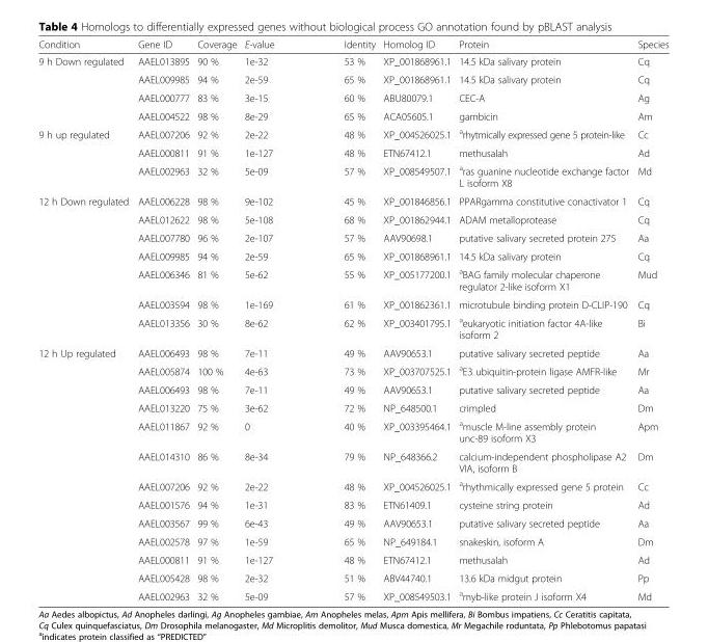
<table><thead><tr><td>Condition</td><td>Gene ID</td><td>Coverage</td><td>E-value</td><td>Identity</td><td>Homolog ID</td><td>Protein</td><td>Species</td></tr></thead><tbody><tr><td rowspan="4">9 h Down regulated</td><td>AAEL013895</td><td>90 %</td><td>1e-32</td><td>53 %</td><td>XP_001868961.1</td><td>14.5 kDa salivary protein</td><td>Cq</td></tr><tr><td>AAEL009985</td><td>94 %</td><td>2e-59</td><td>65 %</td><td>XP_001868961.1</td><td>14.5 kDa salivary protein</td><td>Cq</td></tr><tr><td>AAEL000777</td><td>83 %</td><td>3e-15</td><td>60 %</td><td>ABU80079.1</td><td>CEC-A</td><td>Ag</td></tr><tr><td>AAEL004522</td><td>98 %</td><td>8e-29</td><td>65 %</td><td>ACA05605.1</td><td>gambicin</td><td>Am</td></tr><tr><td rowspan="3">9 h up regulated</td><td>AAEL007206</td><td>92 %</td><td>2e-22</td><td>48 %</td><td>XP_004526025.1</td><td><sup>a</sup>rhytmically expressed gene 5 protein-like</td><td>Cc</td></tr><tr><td>AAEL000811</td><td>91 %</td><td>1e-127</td><td>48 %</td><td>ETN67412.1</td><td>methusalah</td><td>Ad</td></tr><tr><td>AAEL002963</td><td>32 %</td><td>5e-09</td><td>57 %</td><td>XP_008549507.1</td><td><sup>a</sup>ras guanine nucleotide exchange factor L isoform X8</td><td>Md</td></tr><tr><td rowspan="7">12 h Down regulated</td><td>AAEL006228</td><td>98 %</td><td>9e-102</td><td>45 %</td><td>XP_001846856.1</td><td>PPARgamma constitutive conactivator 1</td><td>Cq</td></tr><tr><td>AAEL012622</td><td>98 %</td><td>5e-108</td><td>68 %</td><td>XP_001862944.1</td><td>ADAM metalloprotease</td><td>Cq</td></tr><tr><td>AAEL007780</td><td>96 %</td><td>2e-107</td><td>57 %</td><td>AAV90698.1</td><td>putative salivary secreted protein 275</td><td>Aa</td></tr><tr><td>AAEL009985</td><td>94 %</td><td>2e-59</td><td>65 %</td><td>XP_001868961.1</td><td>14.5 kDa salivary protein</td><td>Cq</td></tr><tr><td>AAEL006346</td><td>81 %</td><td>5e-62</td><td>55 %</td><td>XP_005177200.1</td><td><sup>a</sup>BAG family molecular chaperone regulator 2-like isoform X1</td><td>Mud</td></tr><tr><td>AAEL003594</td><td>98 %</td><td>1e-169</td><td>61 %</td><td>XP_001862361.1</td><td>microtubule binding protein D-CLIP-190</td><td>Cq</td></tr><tr><td>AAEL013356</td><td>30 %</td><td>8e-62</td><td>62 %</td><td>XP_003401795.1</td><td><sup>a</sup>eukaryotic initiation factor 4A-like isoform 2</td><td>Bi</td></tr><tr><td rowspan="13">12 h Up regulated</td><td>AAEL006493</td><td>98 %</td><td>7e-11</td><td>49 %</td><td>AAV90653.1</td><td>putative salivary secreted peptide</td><td>Aa</td></tr><tr><td>AAEL005874</td><td>100 %</td><td>4e-63</td><td>73 %</td><td>XP_003707525.1</td><td><sup>a</sup>E3 ubiquitin-protein ligase AMFR-like</td><td>Mr</td></tr><tr><td>AAEL006493</td><td>98 %</td><td>7e-11</td><td>49 %</td><td>AAV90653.1</td><td>putative salivary secreted peptide</td><td>Aa</td></tr><tr><td>AAEL013220</td><td>75 %</td><td>3e-62</td><td>72 %</td><td>NP_648500.1</td><td>crimpled</td><td>Dm</td></tr><tr><td>AAEL011867</td><td>92 %</td><td>0</td><td>40 %</td><td>XP_003395464.1</td><td><sup>a</sup>muscle M-line assembly protein unc-89 isoform X3</td><td>Apm</td></tr><tr><td>AAEL014310</td><td>86 %</td><td>8e-34</td><td>79 %</td><td>NP_648366.2</td><td>calcium-independent phospholipase A2 VIA, isoform B</td><td>Dm</td></tr><tr><td>AAEL007206</td><td>92 %</td><td>2e-22</td><td>48 %</td><td>XP_004526025.1</td><td><sup>a</sup>rhythmically expressed gene 5 protein</td><td>Cc</td></tr><tr><td>AAEL001576</td><td>94 %</td><td>1e-31</td><td>83 %</td><td>ETN61409.1</td><td>cysteine string protein</td><td>Ad</td></tr><tr><td>AAEL003567</td><td>99 %</td><td>6e-43</td><td>49 %</td><td>AAV90653.1</td><td>putative salivary secreted peptide</td><td>Aa</td></tr><tr><td>AAEL002578</td><td>97 %</td><td>1e-59</td><td>65 %</td><td>NP_649184.1</td><td>snakeskin, isoform A</td><td>Dm</td></tr><tr><td>AAEL000811</td><td>91 %</td><td>1e-127</td><td>48 %</td><td>ETN67412.1</td><td>methusalah</td><td>Ad</td></tr><tr><td>AAEL005428</td><td>98 %</td><td>2e-32</td><td>51 %</td><td>ABV44740.1</td><td>13.6 kDa midgut protein</td><td>Pp</td></tr><tr><td>AAEL002963</td><td>32 %</td><td>5e-09</td><td>57 %</td><td>XP_008549503.1</td><td><sup>a</sup>myb-like protein J isoform X4</td><td>Md</td></tr></tbody></table>